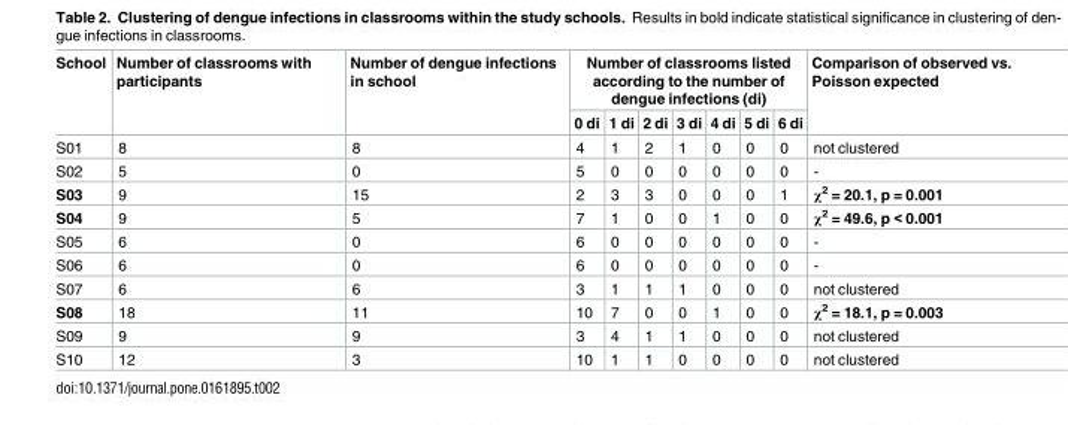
<table><thead><tr><td rowspan="2">School</td><td rowspan="2">Number of classrooms with participants</td><td rowspan="2">Number of dengue infections in school</td><td colspan="7">Number of classrooms listed according to the number of dengue infections (di)</td><td rowspan="2">Comparison of observed vs. Poisson expected</td></tr><tr><td>0 di</td><td>1 di</td><td>2 di</td><td>3 di</td><td>4 di</td><td>5 di</td><td>6 di</td></tr></thead><tbody><tr><td>S01</td><td>8</td><td>8</td><td>4</td><td>1</td><td>2</td><td>1</td><td>0</td><td>0</td><td>0</td><td>not clustered</td></tr><tr><td>S02</td><td>5</td><td>0</td><td>5</td><td>0</td><td>0</td><td>0</td><td>0</td><td>0</td><td>0</td><td>-</td></tr><tr><td>S03</td><td>9</td><td>15</td><td>2</td><td>3</td><td>3</td><td>0</td><td>0</td><td>0</td><td>1</td><td>χ<sup>2</sup> = 20.1, p = 0.001</td></tr><tr><td>S04</td><td>9</td><td>5</td><td>7</td><td>1</td><td>0</td><td>0</td><td>1</td><td>0</td><td>0</td><td>χ<sup>2</sup> = 49.6, p &lt; 0.001</td></tr><tr><td>S05</td><td>6</td><td>0</td><td>6</td><td>0</td><td>0</td><td>0</td><td>0</td><td>0</td><td>0</td><td>-</td></tr><tr><td>S06</td><td>6</td><td>0</td><td>6</td><td>0</td><td>0</td><td>0</td><td>0</td><td>0</td><td>0</td><td>-</td></tr><tr><td>S07</td><td>6</td><td>6</td><td>3</td><td>1</td><td>1</td><td>1</td><td>0</td><td>0</td><td>0</td><td>not clustered</td></tr><tr><td>S08</td><td>18</td><td>11</td><td>10</td><td>7</td><td>0</td><td>0</td><td>1</td><td>0</td><td>0</td><td>χ<sup>2</sup> = 18.1, p = 0.003</td></tr><tr><td>S09</td><td>9</td><td>9</td><td>3</td><td>4</td><td>1</td><td>1</td><td>0</td><td>0</td><td>0</td><td>not clustered</td></tr><tr><td>S10</td><td>12</td><td>3</td><td>10</td><td>1</td><td>1</td><td>0</td><td>0</td><td>0</td><td>0</td><td>not clustered</td></tr></tbody></table>